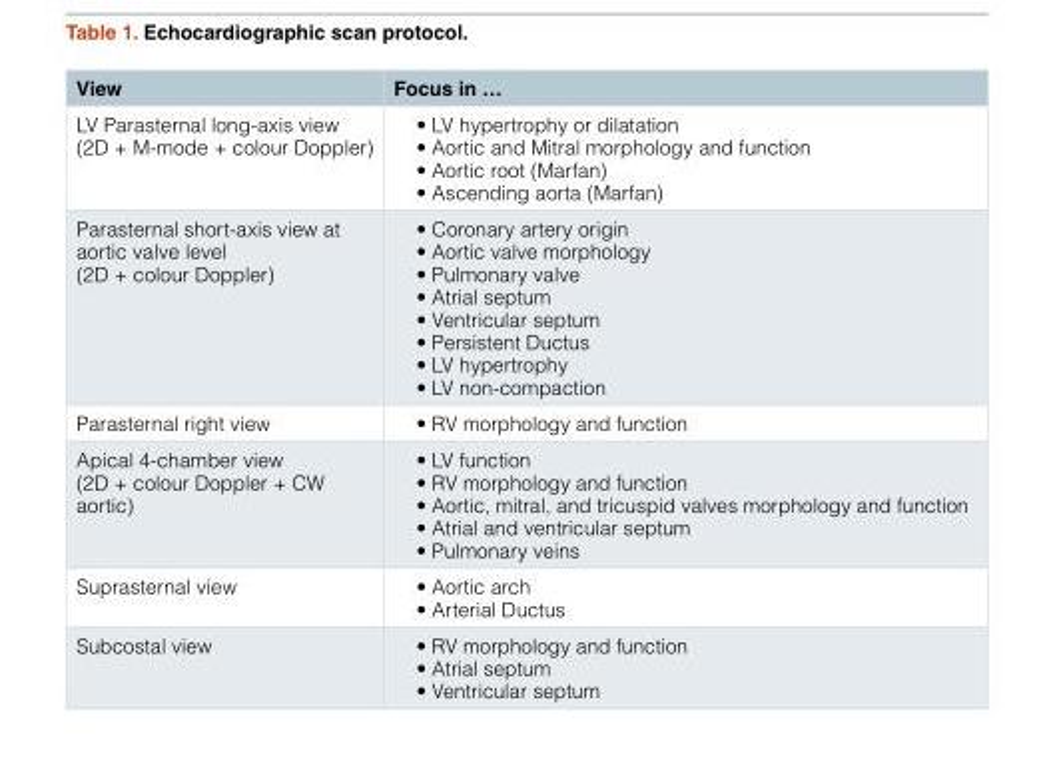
<table><thead><tr><td>View</td><td>Focus in …</td></tr></thead><tbody><tr><td>LV Parasternal long-axis view (2D + M-mode + colour Doppler)</td><td>• LV hypertrophy or dilatation • Aortic and Mitral morphology and function • Aortic root (Marfan) • Ascending aorta (Marfan)</td></tr><tr><td>Parasternal short-axis view at aortic valve level (2D + colour Doppler)</td><td>• Coronary artery origin • Aortic valve morphology • Pulmonary valve • Atrial septum • Ventricular septum • Persistent Ductus • LV hypertrophy • LV non-compaction</td></tr><tr><td>Parasternal right view</td><td>• RV morphology and function</td></tr><tr><td>Apical 4-chamber view (2D + colour Doppler + CW aortic)</td><td>• LV function • RV morphology and function • Aortic, mitral, and tricuspid valves morphology and function • Atrial and ventricular septum • Pulmonary veins</td></tr><tr><td>Suprasternal view</td><td>• Aortic arch • Arterial Ductus</td></tr><tr><td>Subcostal view</td><td>• RV morphology and function • Atrial septum • Ventricular septum</td></tr></tbody></table>